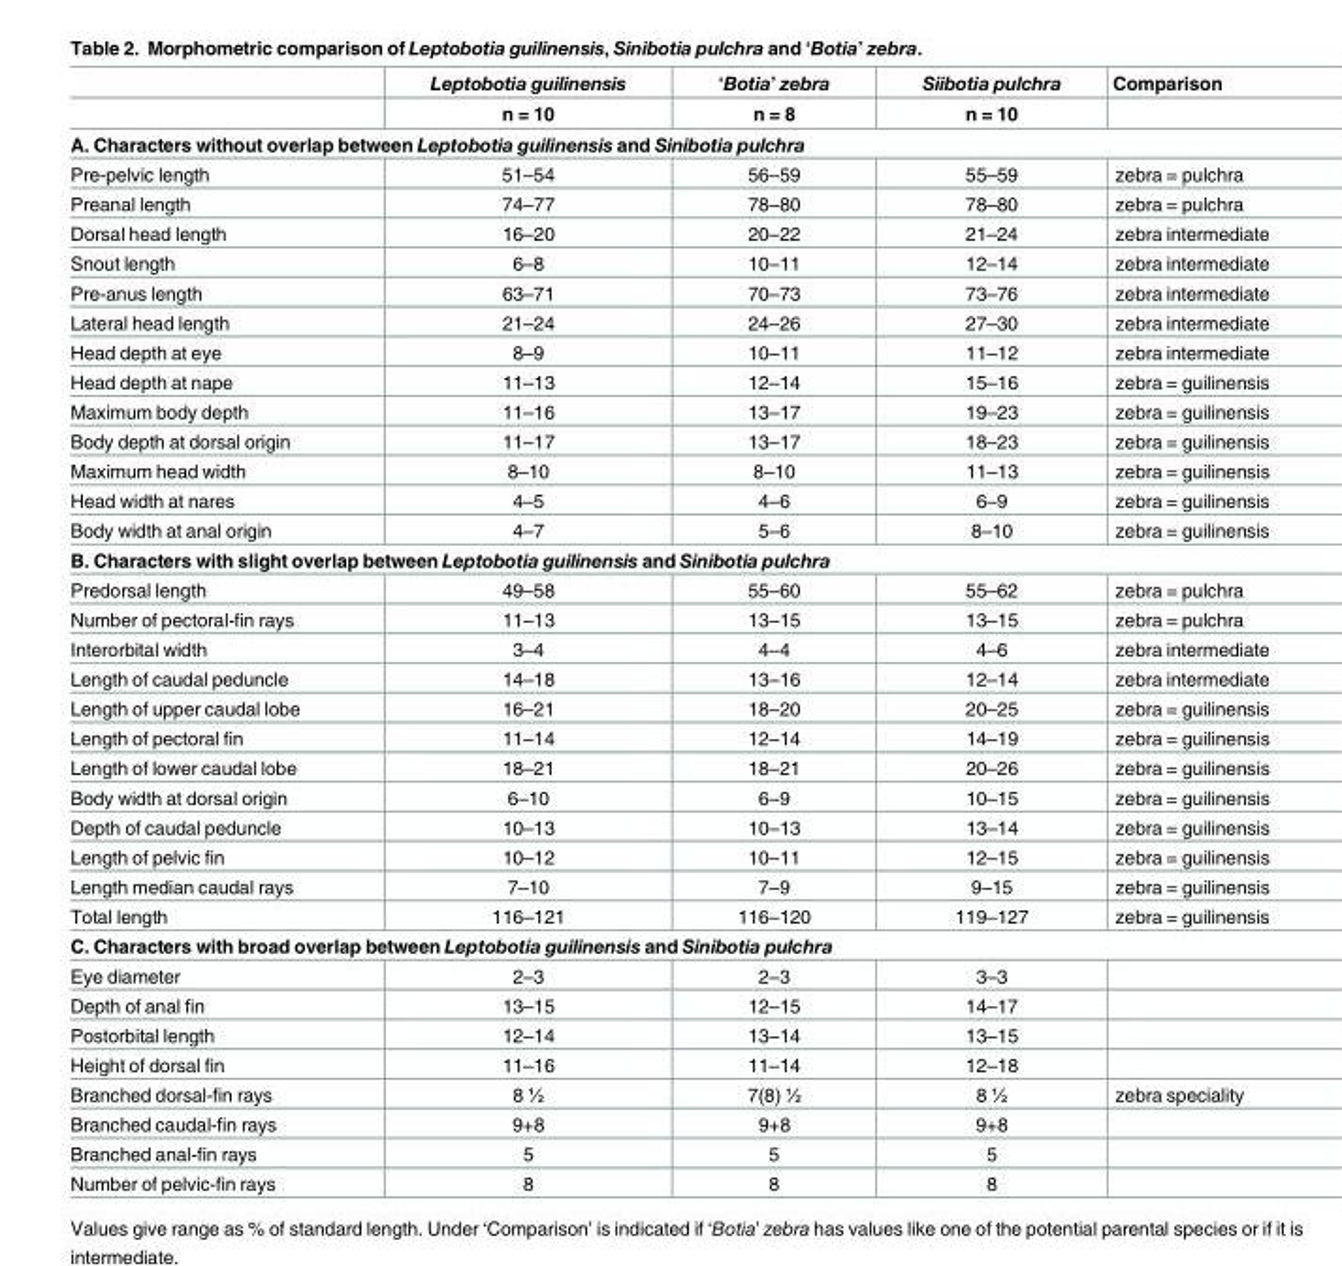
<table><thead><tr><td rowspan="2"></td><td rowspan="2">Leptobotia guilinensis n = 10</td><td rowspan="2">‘Botia’ zebra n = 8</td><td rowspan="2">Siibotia pulchra n = 10</td><td rowspan="2">Comparison</td></tr><tr></tr></thead><tbody><tr><td colspan="5">A. Characters without overlap between Leptobotia guilinensis and Sinibotia pulchra</td></tr><tr><td>Pre-pelvic length</td><td>51–54</td><td>56–59</td><td>55–59</td><td>zebra = pulchra</td></tr><tr><td>Preanal length</td><td>74–77</td><td>78–80</td><td>78–80</td><td>zebra = pulchra</td></tr><tr><td>Dorsal head length</td><td>16–20</td><td>20–22</td><td>21–24</td><td>zebra intermediate</td></tr><tr><td>Snout length</td><td>6–8</td><td>10–11</td><td>12–14</td><td>zebra intermediate</td></tr><tr><td>Pre-anus length</td><td>63–71</td><td>70–73</td><td>73–76</td><td>zebra intermediate</td></tr><tr><td>Lateral head length</td><td>21–24</td><td>24–26</td><td>27–30</td><td>zebra intermediate</td></tr><tr><td>Head depth at eye</td><td>8–9</td><td>10–11</td><td>11–12</td><td>zebra intermediate</td></tr><tr><td>Head depth at nape</td><td>11–13</td><td>12–14</td><td>15–16</td><td>zebra = guilinensis</td></tr><tr><td>Maximum body depth</td><td>11–16</td><td>13–17</td><td>19–23</td><td>zebra = guilinensis</td></tr><tr><td>Body depth at dorsal origin</td><td>11–17</td><td>13–17</td><td>18–23</td><td>zebra = guilinensis</td></tr><tr><td>Maximum head width</td><td>8–10</td><td>8–10</td><td>11–13</td><td>zebra = guilinensis</td></tr><tr><td>Head width at nares</td><td>4–5</td><td>4–6</td><td>6–9</td><td>zebra = guilinensis</td></tr><tr><td>Body width at anal origin</td><td>4–7</td><td>5–6</td><td>8–10</td><td>zebra = guilinensis</td></tr><tr><td colspan="5">B. Characters with slight overlap between Leptobotia guilinensis and Sinibotia pulchra</td></tr><tr><td>Predorsal length</td><td>49–58</td><td>55–60</td><td>55–62</td><td>zebra = pulchra</td></tr><tr><td>Number of pectoral-fin rays</td><td>11–13</td><td>13–15</td><td>13–15</td><td>zebra = pulchra</td></tr><tr><td>Interorbital width</td><td>3–4</td><td>4–4</td><td>4–6</td><td>zebra intermediate</td></tr><tr><td>Length of caudal peduncle</td><td>14–18</td><td>13–16</td><td>12–14</td><td>zebra intermediate</td></tr><tr><td>Length of upper caudal lobe</td><td>16–21</td><td>18–20</td><td>20–25</td><td>zebra = guilinensis</td></tr><tr><td>Length of pectoral fin</td><td>11–14</td><td>12–14</td><td>14–19</td><td>zebra = guilinensis</td></tr><tr><td>Length of lower caudal lobe</td><td>18–21</td><td>18–21</td><td>20–26</td><td>zebra = guilinensis</td></tr><tr><td>Body width at dorsal origin</td><td>6–10</td><td>6–9</td><td>10–15</td><td>zebra = guilinensis</td></tr><tr><td>Depth of caudal peduncle</td><td>10–13</td><td>10–13</td><td>13–14</td><td>zebra = guilinensis</td></tr><tr><td>Length of pelvic fin</td><td>10–12</td><td>10–11</td><td>12–15</td><td>zebra = guilinensis</td></tr><tr><td>Length median caudal rays</td><td>7–10</td><td>7–9</td><td>9–15</td><td>zebra = guilinensis</td></tr><tr><td>Total length</td><td>116–121</td><td>116–120</td><td>119–127</td><td>zebra = guilinensis</td></tr><tr><td colspan="5">C. Characters with broad overlap between Leptobotia guilinensis and Sinibotia pulchra</td></tr><tr><td>Eye diameter</td><td>2–3</td><td>2–3</td><td>3–3</td><td></td></tr><tr><td>Depth of anal fin</td><td>13–15</td><td>12–15</td><td>14–17</td><td></td></tr><tr><td>Postorbital length</td><td>12–14</td><td>13–14</td><td>13–15</td><td></td></tr><tr><td>Height of dorsal fin</td><td>11–16</td><td>11–14</td><td>12–18</td><td></td></tr><tr><td>Branched dorsal-fin rays</td><td>8 ½</td><td>7(8) ½</td><td>8 ½</td><td>zebra speciality</td></tr><tr><td>Branched caudal-fin rays</td><td>9+8</td><td>9+8</td><td>9+8</td><td></td></tr><tr><td>Branched anal-fin rays</td><td>5</td><td>5</td><td>5</td><td></td></tr><tr><td>Number of pelvic-fin rays</td><td>8</td><td>8</td><td>8</td><td></td></tr></tbody></table>